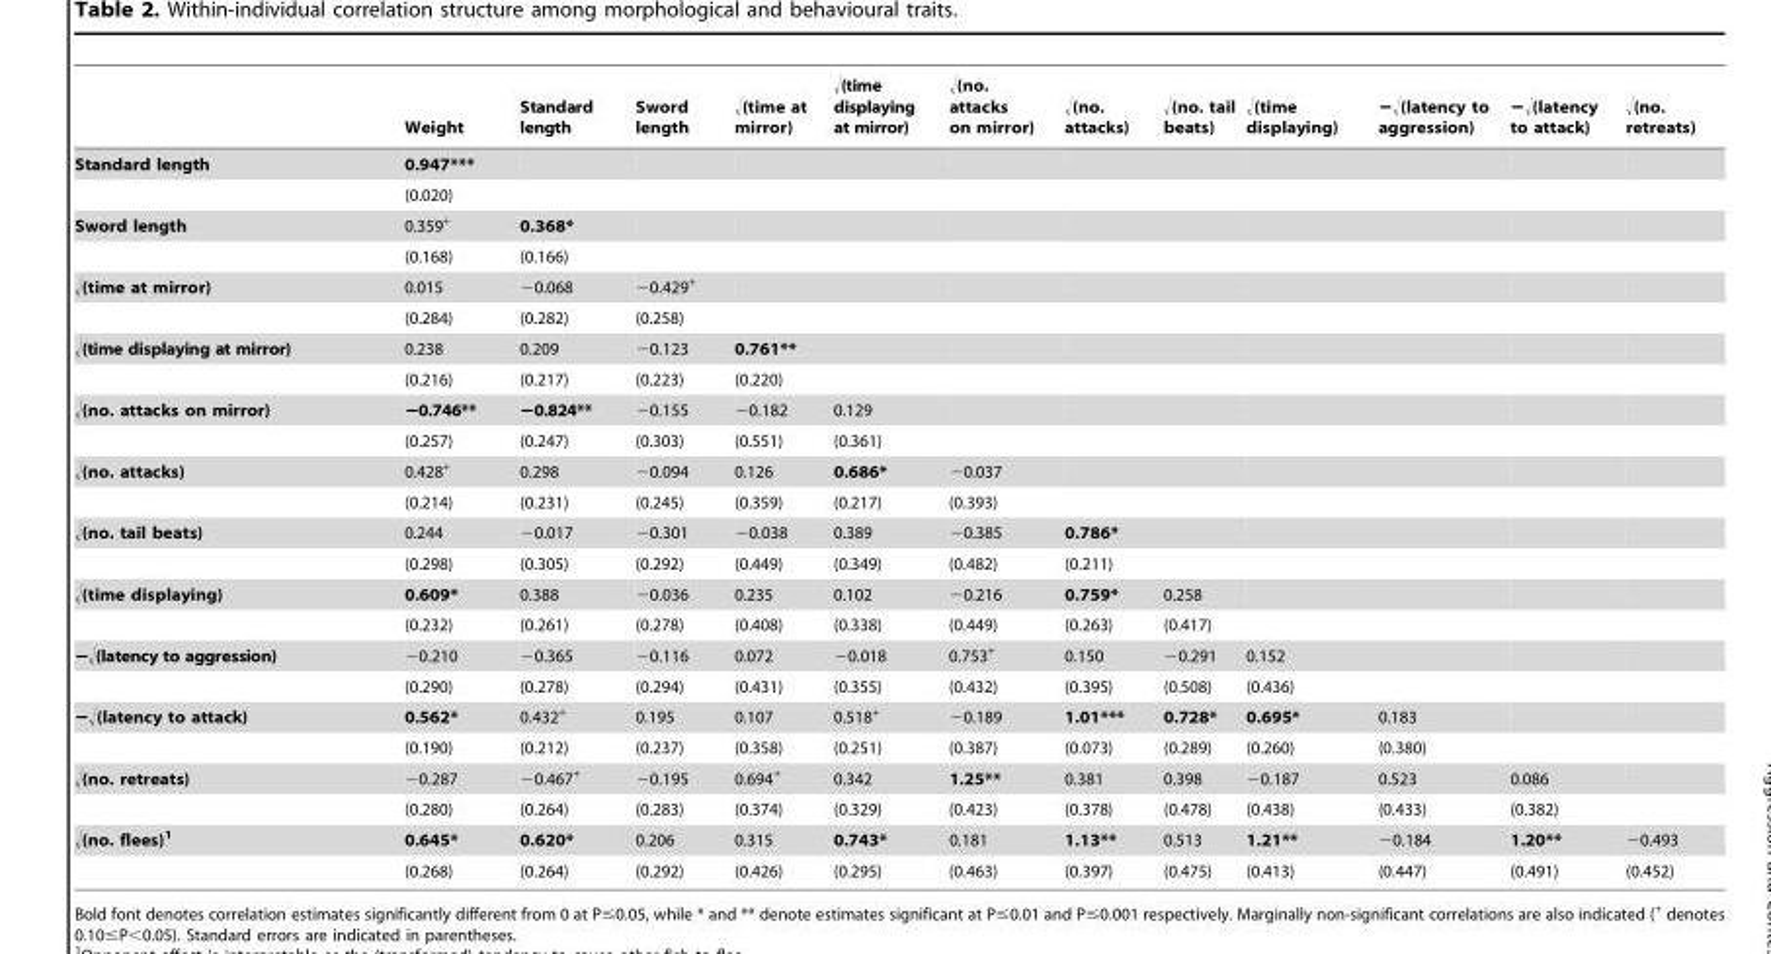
<table><thead><tr><td></td><td>Weight</td><td>Standard length</td><td>Sword length</td><td>√(time at mirror)</td><td>√(time displaying at mirror)</td><td>√(no. attacks on mirror)</td><td>√(no. attacks)</td><td>√(no. tail beats)</td><td>√(time displaying)</td><td>−√(latency to aggression)</td><td>−√(latency to attack)</td><td>√(no. retreats)</td></tr></thead><tbody><tr><td rowspan="2">Standard length</td><td>0.947***</td><td></td><td></td><td></td><td></td><td></td><td></td><td></td><td></td><td></td><td></td><td></td></tr><tr><td>(0.020)</td><td></td><td></td><td></td><td></td><td></td><td></td><td></td><td></td><td></td><td></td><td></td></tr><tr><td rowspan="2">Sword length</td><td>0.359<sup>+</sup></td><td>0.368*</td><td></td><td></td><td></td><td></td><td></td><td></td><td></td><td></td><td></td><td></td></tr><tr><td>(0.168)</td><td>(0.166)</td><td></td><td></td><td></td><td></td><td></td><td></td><td></td><td></td><td></td><td></td></tr><tr><td rowspan="2">√(time at mirror)</td><td>0.015</td><td>−0.068</td><td>−0.429<sup>+</sup></td><td></td><td></td><td></td><td></td><td></td><td></td><td></td><td></td><td></td></tr><tr><td>(0.284)</td><td>(0.282)</td><td>(0.258)</td><td></td><td></td><td></td><td></td><td></td><td></td><td></td><td></td><td></td></tr><tr><td rowspan="2">√(time displaying at mirror)</td><td>0.238</td><td>0.209</td><td>−0.123</td><td>0.761**</td><td></td><td></td><td></td><td></td><td></td><td></td><td></td><td></td></tr><tr><td>(0.216)</td><td>(0.217)</td><td>(0.223)</td><td>(0.220)</td><td></td><td></td><td></td><td></td><td></td><td></td><td></td><td></td></tr><tr><td rowspan="2">√(no. attacks on mirror)</td><td>−0.746**</td><td>−0.824**</td><td>−0.155</td><td>−0.182</td><td>0.129</td><td></td><td></td><td></td><td></td><td></td><td></td><td></td></tr><tr><td>(0.257)</td><td>(0.247)</td><td>(0.303)</td><td>(0.551)</td><td>(0.361)</td><td></td><td></td><td></td><td></td><td></td><td></td><td></td></tr><tr><td rowspan="2">√(no. attacks)</td><td>0.428<sup>+</sup></td><td>0.298</td><td>−0.094</td><td>0.126</td><td>0.686*</td><td>−0.037</td><td></td><td></td><td></td><td></td><td></td><td></td></tr><tr><td>(0.214)</td><td>(0.231)</td><td>(0.245)</td><td>(0.359)</td><td>(0.217)</td><td>(0.393)</td><td></td><td></td><td></td><td></td><td></td><td></td></tr><tr><td rowspan="2">√(no. tail beats)</td><td>0.244</td><td>−0.017</td><td>−0.301</td><td>−0.038</td><td>0.389</td><td>−0.385</td><td>0.786*</td><td></td><td></td><td></td><td></td><td></td></tr><tr><td>(0.298)</td><td>(0.305)</td><td>(0.292)</td><td>(0.449)</td><td>(0.349)</td><td>(0.482)</td><td>(0.211)</td><td></td><td></td><td></td><td></td><td></td></tr><tr><td rowspan="2">√(time displaying)</td><td>0.609*</td><td>0.388</td><td>−0.036</td><td>0.235</td><td>0.102</td><td>−0.216</td><td>0.759*</td><td>0.258</td><td></td><td></td><td></td><td></td></tr><tr><td>(0.232)</td><td>(0.261)</td><td>(0.278)</td><td>(0.408)</td><td>(0.338)</td><td>(0.449)</td><td>(0.263)</td><td>(0.417)</td><td></td><td></td><td></td><td></td></tr><tr><td rowspan="2">−√(latency to aggression)</td><td>−0.210</td><td>−0.365</td><td>−0.116</td><td>0.072</td><td>−0.018</td><td>0.753<sup>+</sup></td><td>0.150</td><td>−0.291</td><td>0.152</td><td></td><td></td><td></td></tr><tr><td>(0.290)</td><td>(0.278)</td><td>(0.294)</td><td>(0.431)</td><td>(0.355)</td><td>(0.432)</td><td>(0.395)</td><td>(0.508)</td><td>(0.436)</td><td></td><td></td><td></td></tr><tr><td rowspan="2">−√(latency to attack)</td><td>0.562*</td><td>0.432<sup>+</sup></td><td>0.195</td><td>0.107</td><td>0.518<sup>+</sup></td><td>−0.189</td><td>1.01***</td><td>0.728*</td><td>0.695*</td><td>0.183</td><td></td><td></td></tr><tr><td>(0.190)</td><td>(0.212)</td><td>(0.237)</td><td>(0.358)</td><td>(0.251)</td><td>(0.387)</td><td>(0.073)</td><td>(0.289)</td><td>(0.260)</td><td>(0.380)</td><td></td><td></td></tr><tr><td rowspan="2">√(no. retreats)</td><td>−0.287</td><td>−0.467<sup>+</sup></td><td>−0.195</td><td>0.694<sup>+</sup></td><td>0.342</td><td>1.25**</td><td>0.381</td><td>0.398</td><td>−0.187</td><td>0.523</td><td>0.086</td><td></td></tr><tr><td>(0.280)</td><td>(0.264)</td><td>(0.283)</td><td>(0.374)</td><td>(0.329)</td><td>(0.423)</td><td>(0.378)</td><td>(0.478)</td><td>(0.438)</td><td>(0.433)</td><td>(0.382)</td><td></td></tr><tr><td rowspan="2">√(no. flees)1</td><td>0.645*</td><td>0.620*</td><td>0.206</td><td>0.315</td><td>0.743*</td><td>0.181</td><td>1.13**</td><td>0.513</td><td>1.21**</td><td>−0.184</td><td>1.20**</td><td>−0.493</td></tr><tr><td>(0.268)</td><td>(0.264)</td><td>(0.292)</td><td>(0.426)</td><td>(0.295)</td><td>(0.463)</td><td>(0.397)</td><td>(0.475)</td><td>(0.413)</td><td>(0.447)</td><td>(0.491)</td><td>(0.452)</td></tr></tbody></table>